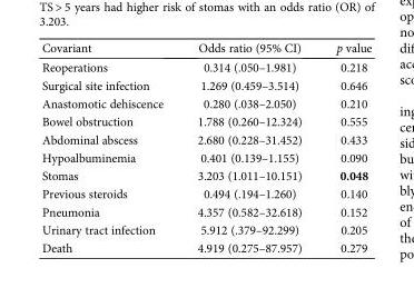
<table><thead><tr><td>Covariant</td><td>Odds ratio (95% CI)</td><td>p value</td></tr></thead><tbody><tr><td>Reoperations</td><td>0.314 (.050–1.981)</td><td>0.218</td></tr><tr><td>Surgical site infection</td><td>1.269 (0.459–3.514)</td><td>0.646</td></tr><tr><td>Anastomotic dehiscence</td><td>0.280 (.038–2.050)</td><td>0.210</td></tr><tr><td>Bowel obstruction</td><td>1.788 (0.260–12.324)</td><td>0.555</td></tr><tr><td>Abdominal abscess</td><td>2.680 (0.228–31.452)</td><td>0.433</td></tr><tr><td>Hypoalbuminemia</td><td>0.401 (0.139–1.155)</td><td>0.090</td></tr><tr><td>Stomas</td><td>3.203 (1.011–10.151)</td><td>0.048</td></tr><tr><td>Previous steroids</td><td>0.494 (.194–1.260)</td><td>0.140</td></tr><tr><td>Pneumonia</td><td>4.357 (0.582–32.618)</td><td>0.152</td></tr><tr><td>Urinary tract infection</td><td>5.912 (.379–92.299)</td><td>0.205</td></tr><tr><td>Death</td><td>4.919 (0.275–87.957)</td><td>0.279</td></tr></tbody></table>